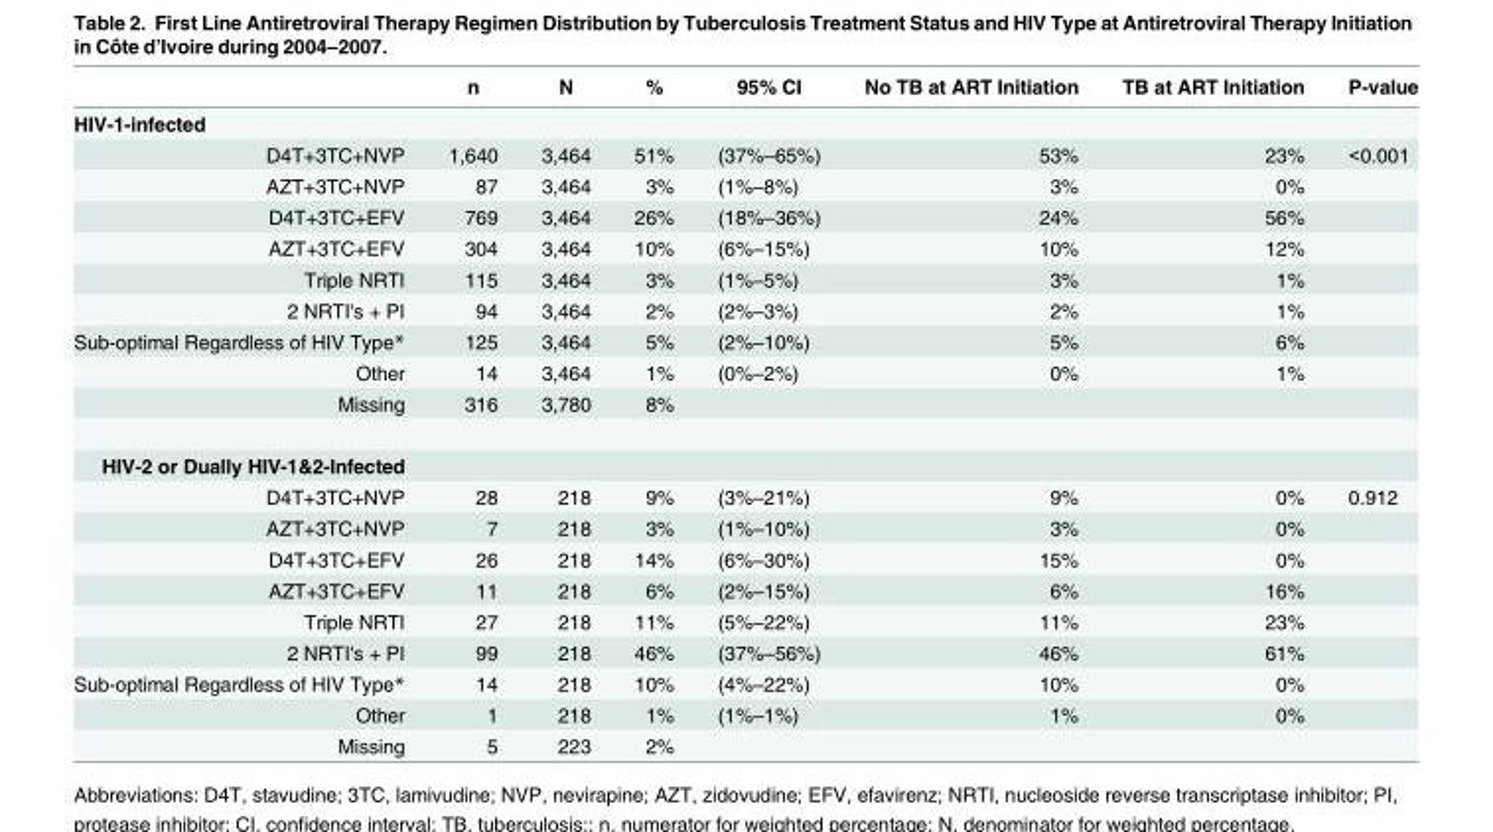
<table><thead><tr><td></td><td>n</td><td>N</td><td>%</td><td>95% CI</td><td>No TB at ART Initiation</td><td>TB at ART Initiation</td><td>P-value</td></tr></thead><tbody><tr><td colspan="8">HIV-1-infected</td></tr><tr><td>D4T+3TC+NVP</td><td>1,640</td><td>3,464</td><td>51%</td><td>(37%–65%)</td><td>53%</td><td>23%</td><td>&lt;0.001</td></tr><tr><td>AZT+3TC+NVP</td><td>87</td><td>3,464</td><td>3%</td><td>(1%–8%)</td><td>3%</td><td>0%</td><td></td></tr><tr><td>D4T+3TC+EFV</td><td>769</td><td>3,464</td><td>26%</td><td>(18%–36%)</td><td>24%</td><td>56%</td><td></td></tr><tr><td>AZT+3TC+EFV</td><td>304</td><td>3,464</td><td>10%</td><td>(6%–15%)</td><td>10%</td><td>12%</td><td></td></tr><tr><td>Triple NRTI</td><td>115</td><td>3,464</td><td>3%</td><td>(1%–5%)</td><td>3%</td><td>1%</td><td></td></tr><tr><td>2 NRTI&#x27;s + PI</td><td>94</td><td>3,464</td><td>2%</td><td>(2%–3%)</td><td>2%</td><td>1%</td><td></td></tr><tr><td>Sub-optimal Regardless of HIV Type*</td><td>125</td><td>3,464</td><td>5%</td><td>(2%–10%)</td><td>5%</td><td>6%</td><td></td></tr><tr><td>Other</td><td>14</td><td>3,464</td><td>1%</td><td>(0%–2%)</td><td>0%</td><td>1%</td><td></td></tr><tr><td>Missing</td><td>316</td><td>3,780</td><td>8%</td><td></td><td></td><td></td><td></td></tr><tr><td colspan="8">HIV-2 or Dually HIV-1&amp;2-Infected</td></tr><tr><td>D4T+3TC+NVP</td><td>28</td><td>218</td><td>9%</td><td>(3%–21%)</td><td>9%</td><td>0%</td><td>0.912</td></tr><tr><td>AZT+3TC+NVP</td><td>7</td><td>218</td><td>3%</td><td>(1%–10%)</td><td>3%</td><td>0%</td><td></td></tr><tr><td>D4T+3TC+EFV</td><td>26</td><td>218</td><td>14%</td><td>(6%–30%)</td><td>15%</td><td>0%</td><td></td></tr><tr><td>AZT+3TC+EFV</td><td>11</td><td>218</td><td>6%</td><td>(2%–15%)</td><td>6%</td><td>16%</td><td></td></tr><tr><td>Triple NRTI</td><td>27</td><td>218</td><td>11%</td><td>(5%–22%)</td><td>11%</td><td>23%</td><td></td></tr><tr><td>2 NRTI&#x27;s + PI</td><td>99</td><td>218</td><td>46%</td><td>(37%–56%)</td><td>46%</td><td>61%</td><td></td></tr><tr><td>Sub-optimal Regardless of HIV Type*</td><td>14</td><td>218</td><td>10%</td><td>(4%–22%)</td><td>10%</td><td>0%</td><td></td></tr><tr><td>Other</td><td>1</td><td>218</td><td>1%</td><td>(1%–1%)</td><td>1%</td><td>0%</td><td></td></tr><tr><td>Missing</td><td>5</td><td>223</td><td>2%</td><td></td><td></td><td></td><td></td></tr></tbody></table>